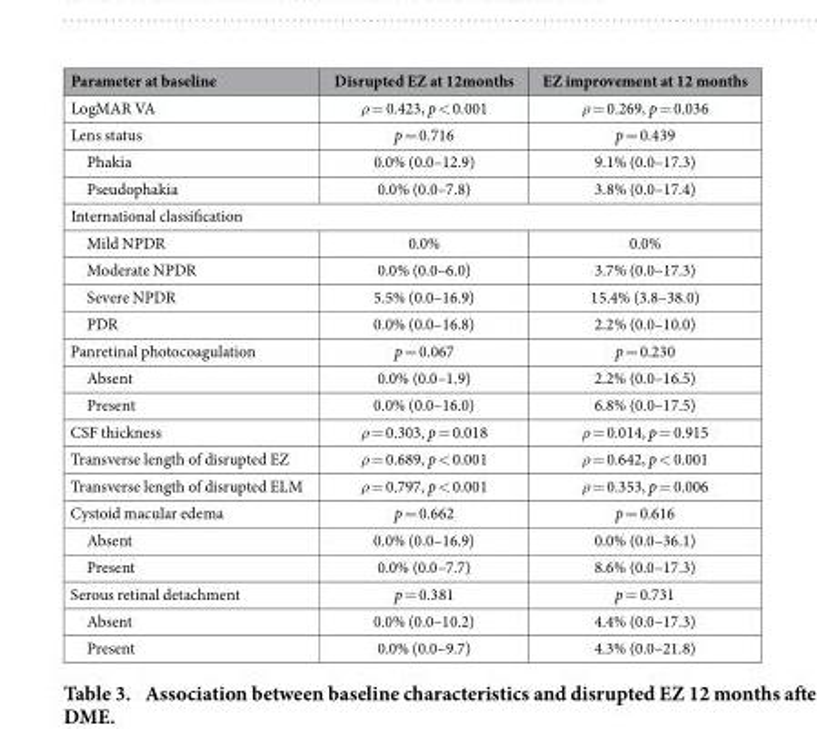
<table><thead><tr><td>Parameter at baseline</td><td>Disrupted EZ at 12months</td><td>EZ improvement at 12 months</td></tr></thead><tbody><tr><td>LogMAR VA</td><td>ρ = 0.423, p &lt; 0.001</td><td>ρ = 0.269, p = 0.036</td></tr><tr><td>Lens status</td><td>p = 0.716</td><td>p = 0.439</td></tr><tr><td>Phakia</td><td>0.0% (0.0–12.9)</td><td>9.1% (0.0–17.3)</td></tr><tr><td>Pseudophakia</td><td>0.0% (0.0–7.8)</td><td>3.8% (0.0–17.4)</td></tr><tr><td colspan="3">International classification</td></tr><tr><td>Mild NPDR</td><td>0.0%</td><td>0.0%</td></tr><tr><td>Moderate NPDR</td><td>0.0% (0.0–6.0)</td><td>3.7% (0.0–17.3)</td></tr><tr><td>Severe NPDR</td><td>5.5% (0.0–16.9)</td><td>15.4% (3.8–38.0)</td></tr><tr><td>PDR</td><td>0.0% (0.0–16.8)</td><td>2.2% (0.0–10.0)</td></tr><tr><td>Panretinal photocoagulation</td><td>p = 0.067</td><td>p = 0.230</td></tr><tr><td>Absent</td><td>0.0% (0.0–1.9)</td><td>2.2% (0.0–16.5)</td></tr><tr><td>Present</td><td>0.0% (0.0–16.0)</td><td>6.8% (0.0–17.5)</td></tr><tr><td>CSF thickness</td><td>ρ = 0.303, p = 0.018</td><td>ρ = 0.014, p = 0.915</td></tr><tr><td>Transverse length of disrupted EZ</td><td>ρ = 0.689, p &lt; 0.001</td><td>ρ = 0.642, p &lt; 0.001</td></tr><tr><td>Transverse length of disrupted ELM</td><td>ρ = 0.797, p &lt; 0.001</td><td>ρ = 0.353, p = 0.006</td></tr><tr><td>Cystoid macular edema</td><td>p = 0.662</td><td>p = 0.616</td></tr><tr><td>Absent</td><td>0.0% (0.0–16.9)</td><td>0.0% (0.0–36.1)</td></tr><tr><td>Present</td><td>0.0% (0.0–7.7)</td><td>8.6% (0.0–17.3)</td></tr><tr><td>Serous retinal detachment</td><td>p = 0.381</td><td>p = 0.731</td></tr><tr><td>Absent</td><td>0.0% (0.0–10.2)</td><td>4.4% (0.0–17.3)</td></tr><tr><td>Present</td><td>0.0% (0.0–9.7)</td><td>4.3% (0.0–21.8)</td></tr></tbody></table>